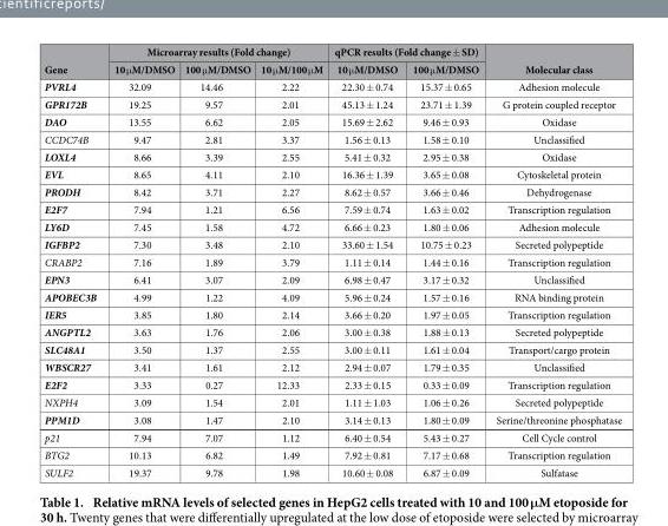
<table><thead><tr><td rowspan="2">Gene</td><td colspan="3">Microarray results (Fold change)</td><td colspan="2">qPCR results (Fold change ± SD)</td><td rowspan="2">Molecular class</td></tr><tr><td>10 μ M/DMSO</td><td>100 μ M/DMSO</td><td>10 μ M/100 μ M</td><td>10 μ M/DMSO</td><td>100 μ M/DMSO</td></tr></thead><tbody><tr><td>PVRL4</td><td>32.09</td><td>14.46</td><td>2.22</td><td>22.30 ± 0.74</td><td>15.37 ± 0.65</td><td>Adhesion molecule</td></tr><tr><td>GPR172B</td><td>19.25</td><td>9.57</td><td>2.01</td><td>45.13 ± 1.24</td><td>23.71 ± 1.39</td><td>G protein coupled receptor</td></tr><tr><td>DAO</td><td>13.55</td><td>6.62</td><td>2.05</td><td>15.69 ± 2.62</td><td>9.46 ± 0.93</td><td>Oxidase</td></tr><tr><td>CCDC74B</td><td>9.47</td><td>2.81</td><td>3.37</td><td>1.56 ± 0.13</td><td>1.58 ± 0.10</td><td>Unclassified</td></tr><tr><td>LOXL4</td><td>8.66</td><td>3.39</td><td>2.55</td><td>5.41 ± 0.32</td><td>2.95 ± 0.38</td><td>Oxidase</td></tr><tr><td>EVL</td><td>8.65</td><td>4.11</td><td>2.10</td><td>16.36 ± 1.39</td><td>3.65 ± 0.08</td><td>Cytoskeletal protein</td></tr><tr><td>PRODH</td><td>8.42</td><td>3.71</td><td>2.27</td><td>8.62 ± 0.57</td><td>3.66 ± 0.46</td><td>Dehydrogenase</td></tr><tr><td>E2F7</td><td>7.94</td><td>1.21</td><td>6.56</td><td>7.59 ± 0.74</td><td>1.63 ± 0.02</td><td>Transcription regulation</td></tr><tr><td>LY6D</td><td>7.45</td><td>1.58</td><td>4.72</td><td>6.66 ± 0.23</td><td>1.80 ± 0.06</td><td>Adhesion molecule</td></tr><tr><td>IGFBP2</td><td>7.30</td><td>3.48</td><td>2.10</td><td>33.60 ± 1.54</td><td>10.75 ± 0.23</td><td>Secreted polypeptide</td></tr><tr><td>CRABP2</td><td>7.16</td><td>1.89</td><td>3.79</td><td>1.11 ± 0.14</td><td>1.44 ± 0.16</td><td>Transcription regulation</td></tr><tr><td>EPN3</td><td>6.41</td><td>3.07</td><td>2.09</td><td>6.98 ± 0.47</td><td>3.17 ± 0.32</td><td>Unclassified</td></tr><tr><td>APOBEC3B</td><td>4.99</td><td>1.22</td><td>4.09</td><td>5.96 ± 0.24</td><td>1.57 ± 0.16</td><td>RNA binding protein</td></tr><tr><td>IER5</td><td>3.85</td><td>1.80</td><td>2.14</td><td>3.66 ± 0.20</td><td>1.97 ± 0.05</td><td>Transcription regulation</td></tr><tr><td>ANGPTL2</td><td>3.63</td><td>1.76</td><td>2.06</td><td>3.00 ± 0.38</td><td>1.88 ± 0.13</td><td>Secreted polypeptide</td></tr><tr><td>SLC48A1</td><td>3.50</td><td>1.37</td><td>2.55</td><td>3.00 ± 0.11</td><td>1.61 ± 0.04</td><td>Transport/cargo protein</td></tr><tr><td>WBSCR27</td><td>3.41</td><td>1.61</td><td>2.12</td><td>2.94 ± 0.07</td><td>1.79 ± 0.35</td><td>Unclassified</td></tr><tr><td>E2F2</td><td>3.33</td><td>0.27</td><td>12.33</td><td>2.33 ± 0.15</td><td>0.33 ± 0.09</td><td>Transcription regulation</td></tr><tr><td>NXPH4</td><td>3.09</td><td>1.54</td><td>2.01</td><td>1.11 ± 1.03</td><td>1.06 ± 0.26</td><td>Secreted polypeptide</td></tr><tr><td>PPM1D</td><td>3.08</td><td>1.47</td><td>2.10</td><td>3.14 ± 0.13</td><td>1.80 ± 0.09</td><td>Serine/threonine phosphatase</td></tr><tr><td>p21</td><td>7.94</td><td>7.07</td><td>1.12</td><td>6.40 ± 0.54</td><td>5.43 ± 0.27</td><td>Cell Cycle control</td></tr><tr><td>BTG2</td><td>10.13</td><td>6.82</td><td>1.49</td><td>7.92 ± 0.81</td><td>7.17 ± 0.68</td><td>Transcription regulation</td></tr><tr><td>SULF2</td><td>19.37</td><td>9.78</td><td>1.98</td><td>10.60 ± 0.08</td><td>6.87 ± 0.09</td><td>Sulfatase</td></tr></tbody></table>